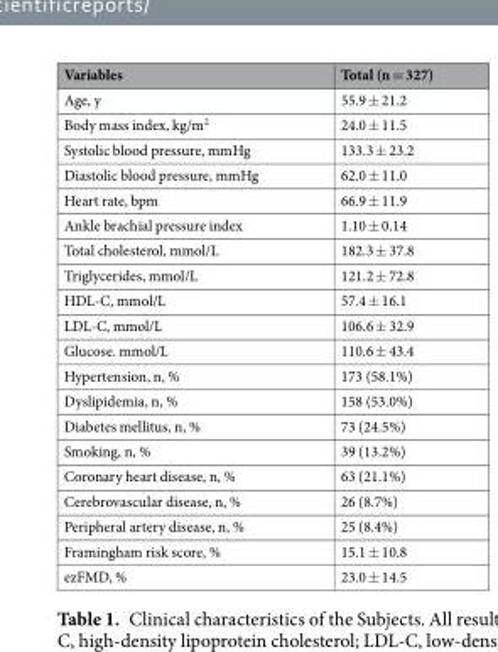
<table><thead><tr><td>Variables</td><td>Total (n = 327)</td></tr></thead><tbody><tr><td>Age, y</td><td>55.9 ± 21.2</td></tr><tr><td>Body mass index, kg/m<sup>2</sup></td><td>24.0 ± 11.5</td></tr><tr><td>Systolic blood pressure, mmHg</td><td>133.3 ± 23.2</td></tr><tr><td>Diastolic blood pressure, mmHg</td><td>62.0 ± 11.0</td></tr><tr><td>Heart rate, bpm</td><td>66.9 ± 11.9</td></tr><tr><td>Ankle brachial pressure index</td><td>1.10 ± 0.14</td></tr><tr><td>Total cholesterol, mmol/L</td><td>182.3 ± 37.8</td></tr><tr><td>Triglycerides, mmol/L</td><td>121.2 ± 72.8</td></tr><tr><td>HDL-C, mmol/L</td><td>57.4 ± 16.1</td></tr><tr><td>LDL-C, mmol/L</td><td>106.6 ± 32.9</td></tr><tr><td>Glucose. mmol/L</td><td>110.6 ± 43.4</td></tr><tr><td>Hypertension, n, %</td><td>173 (58.1%)</td></tr><tr><td>Dyslipidemia, n, %</td><td>158 (53.0%)</td></tr><tr><td>Diabetes mellitus, n, %</td><td>73 (24.5%)</td></tr><tr><td>Smoking, n, %</td><td>39 (13.2%)</td></tr><tr><td>Coronary heart disease, n, %</td><td>63 (21.1%)</td></tr><tr><td>Cerebrovascular disease, n, %</td><td>26 (8.7%)</td></tr><tr><td>Peripheral artery disease, n, %</td><td>25 (8.4%)</td></tr><tr><td>Framingham risk score, %</td><td>15.1 ± 10.8</td></tr><tr><td>ezFMD, %</td><td>23.0 ± 14.5</td></tr></tbody></table>